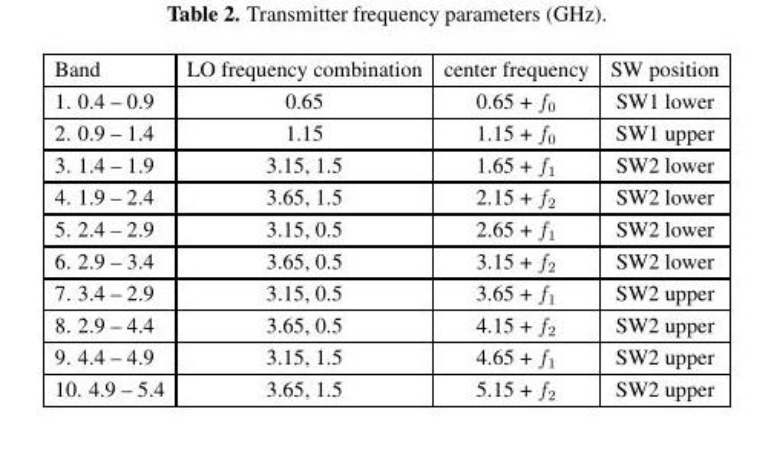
<table><thead><tr><td>Band</td><td>LO frequency combination</td><td>center frequency</td><td>SW position</td></tr></thead><tbody><tr><td>1. 0.4 – 0.9</td><td>0.65</td><td>0.65 + f<sub>0</sub></td><td>SW1 lower</td></tr><tr><td>2. 0.9 – 1.4</td><td>1.15</td><td>1.15 + f<sub>0</sub></td><td>SW1 upper</td></tr><tr><td>3. 1.4 – 1.9</td><td>3.15, 1.5</td><td>1.65 + f<sub>1</sub></td><td>SW2 lower</td></tr><tr><td>4. 1.9 – 2.4</td><td>3.65, 1.5</td><td>2.15 + f<sub>2</sub></td><td>SW2 lower</td></tr><tr><td>5. 2.4 – 2.9</td><td>3.15, 0.5</td><td>2.65 + f<sub>1</sub></td><td>SW2 lower</td></tr><tr><td>6. 2.9 – 3.4</td><td>3.65, 0.5</td><td>3.15 + f<sub>2</sub></td><td>SW2 lower</td></tr><tr><td>7. 3.4 – 2.9</td><td>3.15, 0.5</td><td>3.65 + f<sub>1</sub></td><td>SW2 upper</td></tr><tr><td>8. 2.9 – 4.4</td><td>3.65, 0.5</td><td>4.15 + f<sub>2</sub></td><td>SW2 upper</td></tr><tr><td>9. 4.4 – 4.9</td><td>3.15, 1.5</td><td>4.65 + f<sub>1</sub></td><td>SW2 upper</td></tr><tr><td>10. 4.9 – 5.4</td><td>3.65, 1.5</td><td>5.15 + f<sub>2</sub></td><td>SW2 upper</td></tr></tbody></table>